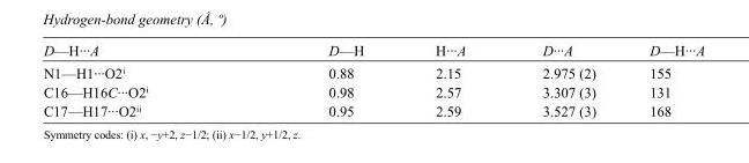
<table><tbody><tr><td>D—H···A</td><td>D—H</td><td>H···A</td><td>D···A</td><td>D—H···A</td></tr><tr><td>N1—H1···O2<sup>i</sup></td><td>0.88</td><td>2.15</td><td>2.975 (2)</td><td>155</td></tr><tr><td>C16—H16C···O2<sup>i</sup></td><td>0.98</td><td>2.57</td><td>3.307 (3)</td><td>131</td></tr><tr><td>C17—H17···O2<sup>ii</sup></td><td>0.95</td><td>2.59</td><td>3.527 (3)</td><td>168</td></tr></tbody></table>